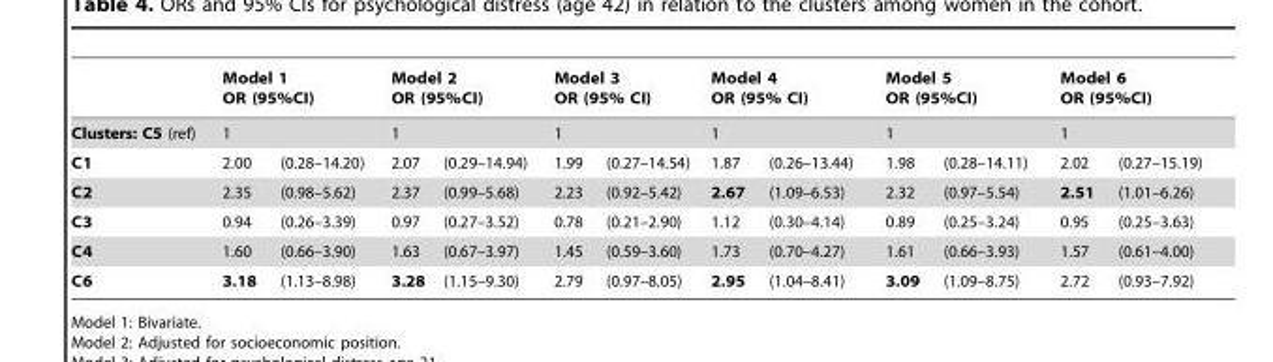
<table><thead><tr><td rowspan="3">Clusters: C5 (ref) C1</td><td rowspan="2" colspan="2">Model 1 OR (95%CI) 1</td><td rowspan="2" colspan="2">Model 2 OR (95%CI) 1</td><td rowspan="2" colspan="2">Model 3 OR (95% CI) 1</td><td rowspan="2" colspan="2">Model 4 OR (95% CI) 1</td><td rowspan="2" colspan="2">Model 5 OR (95%CI) 1</td><td rowspan="2" colspan="2">Model 6 OR (95%CI) 1</td></tr><tr></tr><tr><td>2.00</td><td>(0.28–14.20)</td><td>2.07</td><td>(0.29–14.94)</td><td>1.99</td><td>(0.27–14.54)</td><td>1.87</td><td>(0.26–13.44)</td><td>1.98</td><td>(0.28–14.11)</td><td>2.02</td><td>(0.27–15.19)</td></tr></thead><tbody><tr><td>C2</td><td>2.35</td><td>(0.98–5.62)</td><td>2.37</td><td>(0.99–5.68)</td><td>2.23</td><td>(0.92–5.42)</td><td>2.67</td><td>(1.09–6.53)</td><td>2.32</td><td>(0.97–5.54)</td><td>2.51</td><td>(1.01–6.26)</td></tr><tr><td>C3</td><td>0.94</td><td>(0.26–3.39)</td><td>0.97</td><td>(0.27–3.52)</td><td>0.78</td><td>(0.21–2.90)</td><td>1.12</td><td>(0.30–4.14)</td><td>0.89</td><td>(0.25–3.24)</td><td>0.95</td><td>(0.25–3.63)</td></tr><tr><td>C4</td><td>1.60</td><td>(0.66–3.90)</td><td>1.63</td><td>(0.67–3.97)</td><td>1.45</td><td>(0.59–3.60)</td><td>1.73</td><td>(0.70–4.27)</td><td>1.61</td><td>(0.66–3.93)</td><td>1.57</td><td>(0.61–4.00)</td></tr><tr><td>C6</td><td>3.18</td><td>(1.13–8.98)</td><td>3.28</td><td>(1.15–9.30)</td><td>2.79</td><td>(0.97–8.05)</td><td>2.95</td><td>(1.04–8.41)</td><td>3.09</td><td>(1.09–8.75)</td><td>2.72</td><td>(0.93–7.92)</td></tr></tbody></table>